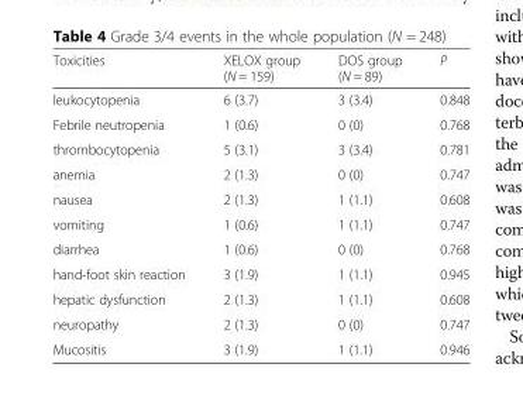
<table><thead><tr><td>Toxicities</td><td>XELOX group (N = 159)</td><td>DOS group (N = 89)</td><td>P</td></tr></thead><tbody><tr><td>leukocytopenia</td><td>6 (3.7)</td><td>3 (3.4)</td><td>0.848</td></tr><tr><td>Febrile neutropenia</td><td>1 (0.6)</td><td>0 (0)</td><td>0.768</td></tr><tr><td>thrombocytopenia</td><td>5 (3.1)</td><td>3 (3.4)</td><td>0.781</td></tr><tr><td>anemia</td><td>2 (1.3)</td><td>0 (0)</td><td>0.747</td></tr><tr><td>nausea</td><td>2 (1.3)</td><td>1 (1.1)</td><td>0.608</td></tr><tr><td>vomiting</td><td>1 (0.6)</td><td>1 (1.1)</td><td>0.747</td></tr><tr><td>diarrhea</td><td>1 (0.6)</td><td>0 (0)</td><td>0.768</td></tr><tr><td>hand-foot skin reaction</td><td>3 (1.9)</td><td>1 (1.1)</td><td>0.945</td></tr><tr><td>hepatic dysfunction</td><td>2 (1.3)</td><td>1 (1.1)</td><td>0.608</td></tr><tr><td>neuropathy</td><td>2 (1.3)</td><td>0 (0)</td><td>0.747</td></tr><tr><td>Mucositis</td><td>3 (1.9)</td><td>1 (1.1)</td><td>0.946</td></tr></tbody></table>